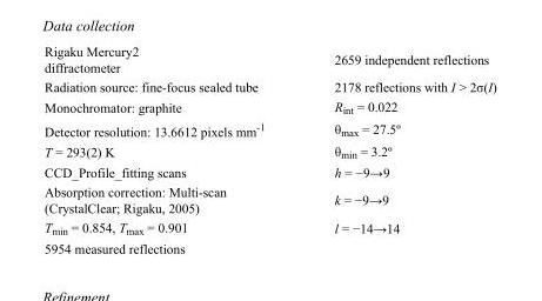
<table><tbody><tr><td>Rigaku Mercury2 diffractometer</td><td>2659 independent reflections</td></tr><tr><td>Radiation source: fine-focus sealed tube</td><td>2178 reflections with I &gt; 2σ(I)</td></tr><tr><td>Monochromator: graphite</td><td>R<sub>int</sub> = 0.022</td></tr><tr><td>Detector resolution: 13.6612 pixels mm<sup>-1</sup></td><td>θ<sub>max</sub> = 27.5º</td></tr><tr><td>T = 293(2) K</td><td>θ<sub>min</sub> = 3.2º</td></tr><tr><td>CCD_Profile_fitting scans</td><td>h = −9→9</td></tr><tr><td>Absorption correction: Multi-scan (CrystalClear; Rigaku, 2005)</td><td>k = −9→9</td></tr><tr><td>T<sub>min</sub> = 0.854, T<sub>max</sub> = 0.901</td><td>l = −14→14</td></tr><tr><td>5954 measured reflections</td><td></td></tr></tbody></table>